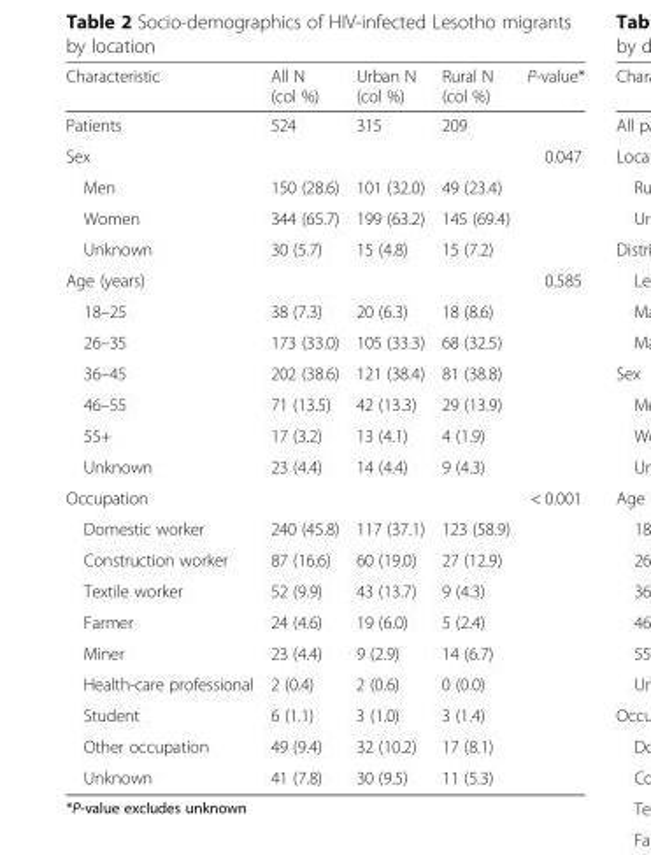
<table><thead><tr><td>Characteristic</td><td>All N (col %)</td><td>Urban N (col %)</td><td>Rural N (col %)</td><td>P-value*</td></tr></thead><tbody><tr><td>Patients</td><td>524</td><td>315</td><td>209</td><td></td></tr><tr><td>Sex</td><td></td><td></td><td></td><td>0.047</td></tr><tr><td>Men</td><td>150 (28.6)</td><td>101 (32.0)</td><td>49 (23.4)</td><td></td></tr><tr><td>Women</td><td>344 (65.7)</td><td>199 (63.2)</td><td>145 (69.4)</td><td></td></tr><tr><td>Unknown</td><td>30 (5.7)</td><td>15 (4.8)</td><td>15 (7.2)</td><td></td></tr><tr><td>Age (years)</td><td></td><td></td><td></td><td>0.585</td></tr><tr><td>18–25</td><td>38 (7.3)</td><td>20 (6.3)</td><td>18 (8.6)</td><td></td></tr><tr><td>26–35</td><td>173 (33.0)</td><td>105 (33.3)</td><td>68 (32.5)</td><td></td></tr><tr><td>36–45</td><td>202 (38.6)</td><td>121 (38.4)</td><td>81 (38.8)</td><td></td></tr><tr><td>46–55</td><td>71 (13.5)</td><td>42 (13.3)</td><td>29 (13.9)</td><td></td></tr><tr><td>55+</td><td>17 (3.2)</td><td>13 (4.1)</td><td>4 (1.9)</td><td></td></tr><tr><td>Unknown</td><td>23 (4.4)</td><td>14 (4.4)</td><td>9 (4.3)</td><td></td></tr><tr><td>Occupation</td><td></td><td></td><td></td><td>&lt; 0.001</td></tr><tr><td>Domestic worker</td><td>240 (45.8)</td><td>117 (37.1)</td><td>123 (58.9)</td><td></td></tr><tr><td>Construction worker</td><td>87 (16.6)</td><td>60 (19.0)</td><td>27 (12.9)</td><td></td></tr><tr><td>Textile worker</td><td>52 (9.9)</td><td>43 (13.7)</td><td>9 (4.3)</td><td></td></tr><tr><td>Farmer</td><td>24 (4.6)</td><td>19 (6.0)</td><td>5 (2.4)</td><td></td></tr><tr><td>Miner</td><td>23 (4.4)</td><td>9 (2.9)</td><td>14 (6.7)</td><td></td></tr><tr><td>Health-care professional</td><td>2 (0.4)</td><td>2 (0.6)</td><td>0 (0.0)</td><td></td></tr><tr><td>Student</td><td>6 (1.1)</td><td>3 (1.0)</td><td>3 (1.4)</td><td></td></tr><tr><td>Other occupation</td><td>49 (9.4)</td><td>32 (10.2)</td><td>17 (8.1)</td><td></td></tr><tr><td>Unknown</td><td>41 (7.8)</td><td>30 (9.5)</td><td>11 (5.3)</td><td></td></tr></tbody></table>